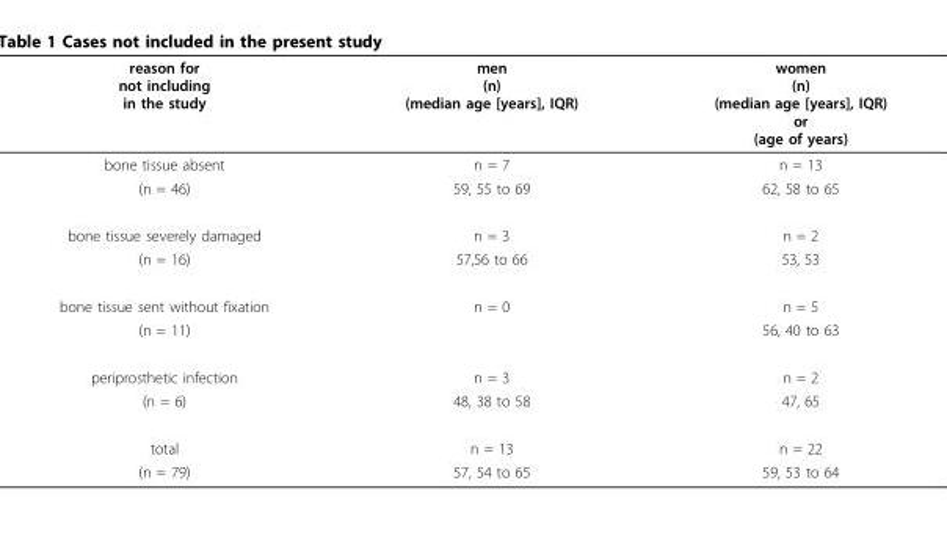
<table><thead><tr><td>reason for not including in the study</td><td>men (n) (median age [years], IQR)</td><td>women (n) (median age [years], IQR) or (age of years)</td></tr></thead><tbody><tr><td>bone tissue absent</td><td>n = 7</td><td>n = 13</td></tr><tr><td>(n = 46)</td><td>59, 55 to 69</td><td>62, 58 to 65</td></tr><tr><td>bone tissue severely damaged</td><td>n = 3</td><td>n = 2</td></tr><tr><td>(n = 16)</td><td>57,56 to 66</td><td>53, 53</td></tr><tr><td>bone tissue sent without fixation</td><td>n = 0</td><td>n = 5</td></tr><tr><td>(n = 11)</td><td></td><td>56, 40 to 63</td></tr><tr><td>periprosthetic infection</td><td>n = 3</td><td>n = 2</td></tr><tr><td>(n = 6)</td><td>48, 38 to 58</td><td>47, 65</td></tr><tr><td>total</td><td>n = 13</td><td>n = 22</td></tr><tr><td>(n = 79)</td><td>57, 54 to 65</td><td>59, 53 to 64</td></tr></tbody></table>